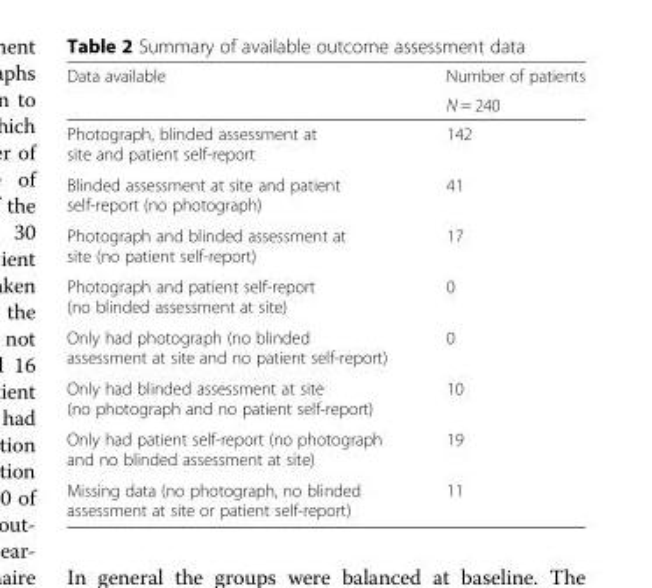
<table><thead><tr><td rowspan="2">Data available</td><td rowspan="2">Number of patients N = 240</td></tr><tr></tr></thead><tbody><tr><td>Photograph, blinded assessment at site and patient self-report</td><td>142</td></tr><tr><td>Blinded assessment at site and patient self-report (no photograph)</td><td>41</td></tr><tr><td>Photograph and blinded assessment at site (no patient self-report)</td><td>17</td></tr><tr><td>Photograph and patient self-report (no blinded assessment at site)</td><td>0</td></tr><tr><td>Only had photograph (no blinded assessment at site and no patient self-report)</td><td>0</td></tr><tr><td>Only had blinded assessment at site (no photograph and no patient self-report)</td><td>10</td></tr><tr><td>Only had patient self-report (no photograph and no blinded assessment at site)</td><td>19</td></tr><tr><td>Missing data (no photograph, no blinded assessment at site or patient self-report)</td><td>11</td></tr></tbody></table>